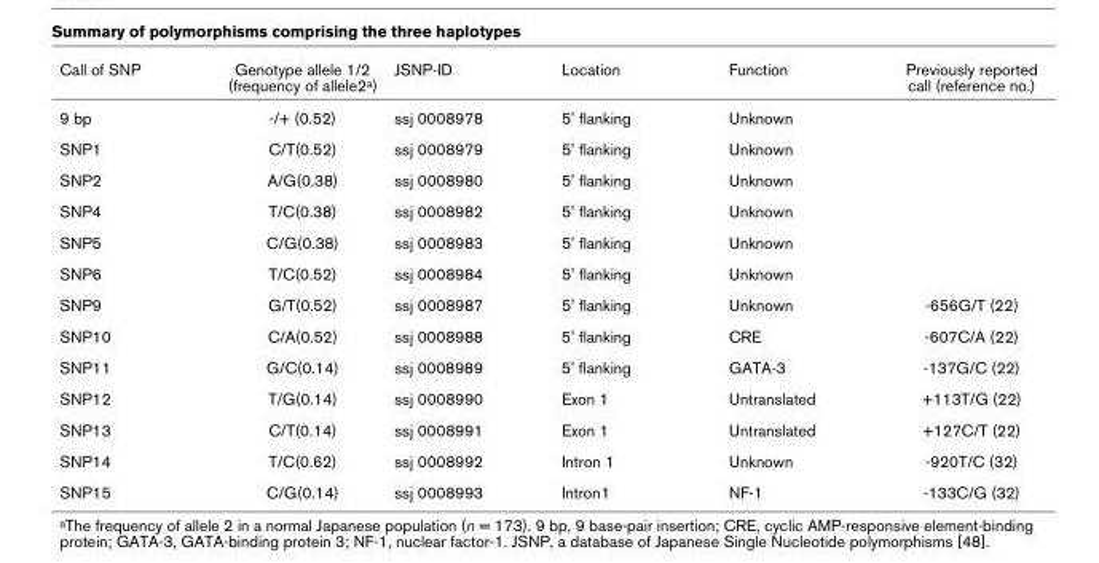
<table><thead><tr><td>Call of SNP</td><td>Genotype allele 1/2 (frequency of allele2a)</td><td>JSNP-ID</td><td>Location</td><td>Function</td><td>Previously reported call (reference no.)</td></tr></thead><tbody><tr><td>9 bp</td><td>-/+ (0.52)</td><td>ssj 0008978</td><td>5&#x27; flanking</td><td>Unknown</td><td></td></tr><tr><td>SNP1</td><td>C/T(0.52)</td><td>ssj 0008979</td><td>5&#x27; flanking</td><td>Unknown</td><td></td></tr><tr><td>SNP2</td><td>A/G(0.38)</td><td>ssj 0008980</td><td>5&#x27; flanking</td><td>Unknown</td><td></td></tr><tr><td>SNP4</td><td>T/C(0.38)</td><td>ssj 0008982</td><td>5&#x27; flanking</td><td>Unknown</td><td></td></tr><tr><td>SNP5</td><td>C/G(0.38)</td><td>ssj 0008983</td><td>5&#x27; flanking</td><td>Unknown</td><td></td></tr><tr><td>SNP6</td><td>T/C(0.52)</td><td>ssj 0008984</td><td>5&#x27; flanking</td><td>Unknown</td><td></td></tr><tr><td>SNP9</td><td>G/T(0.52)</td><td>ssj 0008987</td><td>5&#x27; flanking</td><td>Unknown</td><td>-656G/T (22)</td></tr><tr><td>SNP10</td><td>C/A(0.52)</td><td>ssj 0008988</td><td>5&#x27; flanking</td><td>CRE</td><td>-607C/A (22)</td></tr><tr><td>SNP11</td><td>G/C(0.14)</td><td>ssj 0008989</td><td>5&#x27; flanking</td><td>GATA-3</td><td>-137G/C (22)</td></tr><tr><td>SNP12</td><td>T/G(0.14)</td><td>ssj 0008990</td><td>Exon 1</td><td>Untranslated</td><td>+113T/G (22)</td></tr><tr><td>SNP13</td><td>C/T(0.14)</td><td>ssj 0008991</td><td>Exon 1</td><td>Untranslated</td><td>+127C/T (22)</td></tr><tr><td>SNP14</td><td>T/C(0.62)</td><td>ssj 0008992</td><td>Intron 1</td><td>Unknown</td><td>-920T/C (32)</td></tr><tr><td>SNP15</td><td>C/G(0.14)</td><td>ssj 0008993</td><td>Intron1</td><td>NF-1</td><td>-133C/G (32)</td></tr></tbody></table>